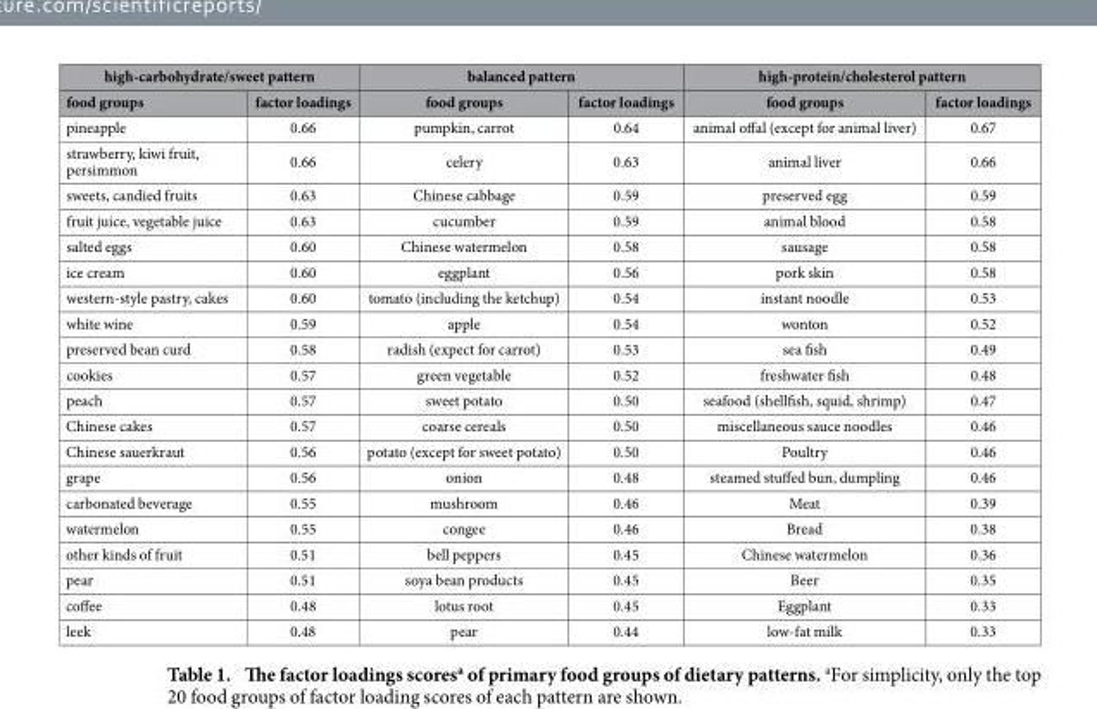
<table><thead><tr><td colspan="2">high-carbohydrate/sweet pattern</td><td colspan="2">balanced pattern</td><td colspan="2">high-protein/cholesterol pattern</td></tr><tr><td>food groups</td><td>factor loadings</td><td>food groups</td><td>factor loadings</td><td>food groups</td><td>factor loadings</td></tr></thead><tbody><tr><td>pineapple</td><td>0.66</td><td>pumpkin, carrot</td><td>0.64</td><td>animal offal (except for animal liver)</td><td>0.67</td></tr><tr><td>strawberry, kiwi fruit, persimmon</td><td>0.66</td><td>celery</td><td>0.63</td><td>animal liver</td><td>0.66</td></tr><tr><td>sweets, candied fruits</td><td>0.63</td><td>Chinese cabbage</td><td>0.59</td><td>preserved egg</td><td>0.59</td></tr><tr><td>fruit juice, vegetable juice</td><td>0.63</td><td>cucumber</td><td>0.59</td><td>animal blood</td><td>0.58</td></tr><tr><td>salted eggs</td><td>0.60</td><td>Chinese watermelon</td><td>0.58</td><td>sausage</td><td>0.58</td></tr><tr><td>ice cream</td><td>0.60</td><td>eggplant</td><td>0.56</td><td>pork skin</td><td>0.58</td></tr><tr><td>western-style pastry, cakes</td><td>0.60</td><td>tomato (including the ketchup)</td><td>0.54</td><td>instant noodle</td><td>0.53</td></tr><tr><td>white wine</td><td>0.59</td><td>apple</td><td>0.54</td><td>wonton</td><td>0.52</td></tr><tr><td>preserved bean curd</td><td>0.58</td><td>radish (expect for carrot)</td><td>0.53</td><td>sea fish</td><td>0.49</td></tr><tr><td>cookies</td><td>0.57</td><td>green vegetable</td><td>0.52</td><td>freshwater fish</td><td>0.48</td></tr><tr><td>peach</td><td>0.57</td><td>sweet potato</td><td>0.50</td><td>seafood (shellfish, squid, shrimp)</td><td>0.47</td></tr><tr><td>Chinese cakes</td><td>0.57</td><td>coarse cereals</td><td>0.50</td><td>miscellaneous sauce noodles</td><td>0.46</td></tr><tr><td>Chinese sauerkraut</td><td>0.56</td><td>potato (except for sweet potato)</td><td>0.50</td><td>Poultry</td><td>0.46</td></tr><tr><td>grape</td><td>0.56</td><td>onion</td><td>0.48</td><td>steamed stuffed bun, dumpling</td><td>0.46</td></tr><tr><td>carbonated beverage</td><td>0.55</td><td>mushroom</td><td>0.46</td><td>Meat</td><td>0.39</td></tr><tr><td>watermelon</td><td>0.55</td><td>congee</td><td>0.46</td><td>Bread</td><td>0.38</td></tr><tr><td>other kinds of fruit</td><td>0.51</td><td>bell peppers</td><td>0.45</td><td>Chinese watermelon</td><td>0.36</td></tr><tr><td>pear</td><td>0.51</td><td>soya bean products</td><td>0.45</td><td>Beer</td><td>0.35</td></tr><tr><td>coffee</td><td>0.48</td><td>lotus root</td><td>0.45</td><td>Eggplant</td><td>0.33</td></tr><tr><td>leek</td><td>0.48</td><td>pear</td><td>0.44</td><td>low-fat milk</td><td>0.33</td></tr></tbody></table>